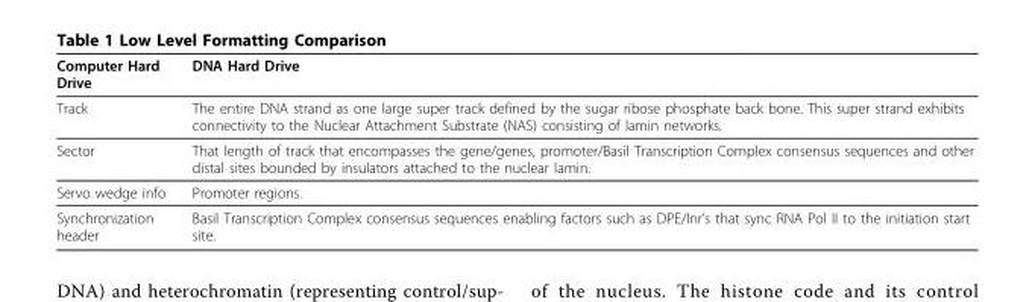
<table><thead><tr><td>Computer Hard Drive</td><td>DNA Hard Drive</td></tr></thead><tbody><tr><td>Track</td><td>The entire DNA strand as one large super track defined by the sugar ribose phosphate back bone. This super strand exhibits connectivity to the Nuclear Attachment Substrate (NAS) consisting of lamin networks.</td></tr><tr><td>Sector</td><td>That length of track that encompasses the gene/genes, promoter/Basil Transcription Complex consensus sequences and other distal sites bounded by insulators attached to the nuclear lamin.</td></tr><tr><td>Servo wedge info</td><td>Promoter regions.</td></tr><tr><td>Synchronization header</td><td>Basil Transcription Complex consensus sequences enabling factors such as DPE/Inr’s that sync RNA Pol II to the initiation start site.</td></tr></tbody></table>